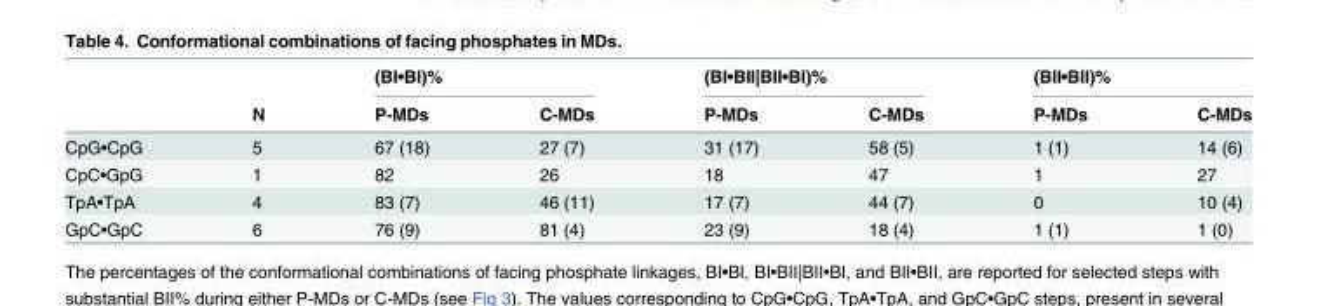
<table><thead><tr><td rowspan="2"></td><td rowspan="2">N</td><td colspan="2">(BI•BI)%</td><td colspan="2">(BI•BII|BII•BI)%</td><td colspan="2">(BII•BII)%</td></tr><tr><td>P-MDs</td><td>C-MDs</td><td>P-MDs</td><td>C-MDs</td><td>P-MDs</td><td>C-MDs</td></tr></thead><tbody><tr><td>CpG•CpG</td><td>5</td><td>67 (18)</td><td>27 (7)</td><td>31 (17)</td><td>58 (5)</td><td>1 (1)</td><td>14 (6)</td></tr><tr><td>CpC•GpG</td><td>1</td><td>82</td><td>26</td><td>18</td><td>47</td><td>1</td><td>27</td></tr><tr><td>TpA•TpA</td><td>4</td><td>83 (7)</td><td>46 (11)</td><td>17 (7)</td><td>44 (7)</td><td>0</td><td>10 (4)</td></tr><tr><td>GpC•GpC</td><td>6</td><td>76 (9)</td><td>81 (4)</td><td>23 (9)</td><td>18 (4)</td><td>1 (1)</td><td>1 (0)</td></tr></tbody></table>